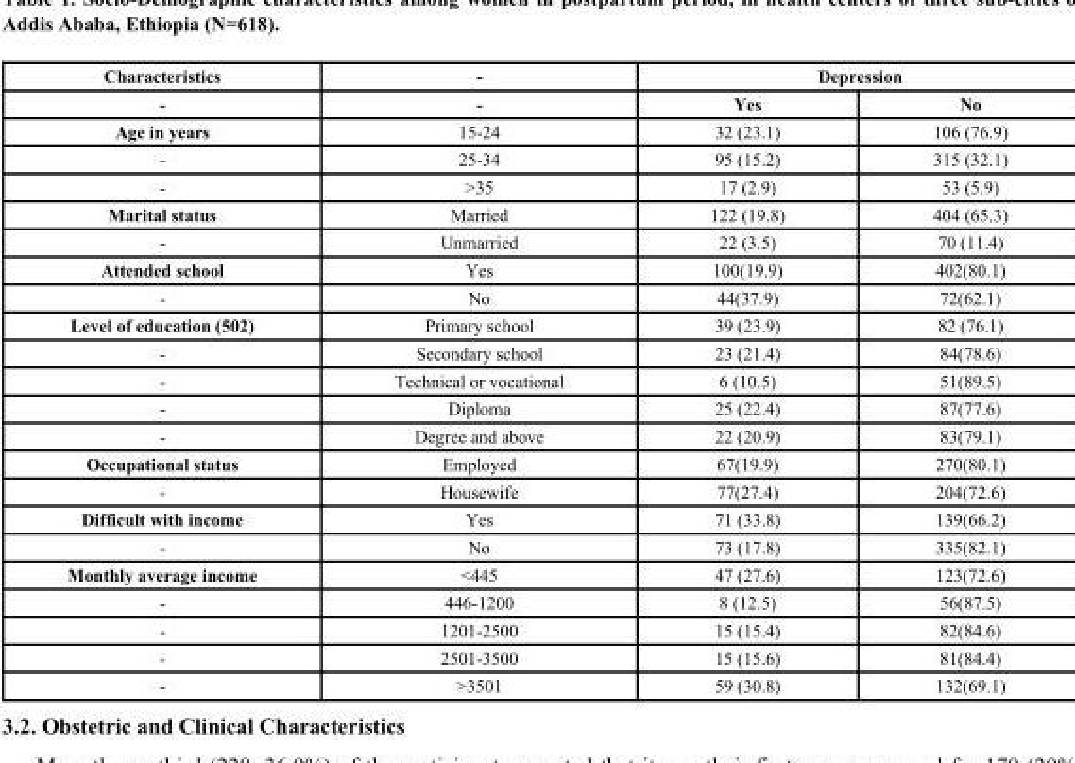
<table><thead><tr><td rowspan="2">Characteristics -</td><td rowspan="2">- -</td><td colspan="2">Depression</td></tr><tr><td>Yes</td><td>No</td></tr></thead><tbody><tr><td>Age in years</td><td>15-24</td><td>32 (23.1)</td><td>106 (76.9)</td></tr><tr><td>-</td><td>25-34</td><td>95 (15.2)</td><td>315 (32.1)</td></tr><tr><td>-</td><td>&gt;35</td><td>17 (2.9)</td><td>53 (5.9)</td></tr><tr><td>Marital status</td><td>Married</td><td>122 (19.8)</td><td>404 (65.3)</td></tr><tr><td>-</td><td>Unmarried</td><td>22 (3.5)</td><td>70 (11.4)</td></tr><tr><td>Attended school</td><td>Yes</td><td>100(19.9)</td><td>402(80.1)</td></tr><tr><td>-</td><td>No</td><td>44(37.9)</td><td>72(62.1)</td></tr><tr><td>Level of education (502)</td><td>Primary school</td><td>39 (23.9)</td><td>82 (76.1)</td></tr><tr><td>-</td><td>Secondary school</td><td>23 (21.4)</td><td>84(78.6)</td></tr><tr><td>-</td><td>Technical or vocational</td><td>6 (10.5)</td><td>51(89.5)</td></tr><tr><td>-</td><td>Diploma</td><td>25 (22.4)</td><td>87(77.6)</td></tr><tr><td>-</td><td>Degree and above</td><td>22 (20.9)</td><td>83(79.1)</td></tr><tr><td>Occupational status</td><td>Employed</td><td>67(19.9)</td><td>270(80.1)</td></tr><tr><td>-</td><td>Housewife</td><td>77(27.4)</td><td>204(72.6)</td></tr><tr><td>Difficult with income</td><td>Yes</td><td>71 (33.8)</td><td>139(66.2)</td></tr><tr><td>-</td><td>No</td><td>73 (17.8)</td><td>335(82.1)</td></tr><tr><td>Monthly average income</td><td>&lt;445</td><td>47 (27.6)</td><td>123(72.6)</td></tr><tr><td>-</td><td>446-1200</td><td>8 (12.5)</td><td>56(87.5)</td></tr><tr><td>-</td><td>1201-2500</td><td>15 (15.4)</td><td>82(84.6)</td></tr><tr><td>-</td><td>2501-3500</td><td>15 (15.6)</td><td>81(84.4)</td></tr><tr><td>-</td><td>&gt;3501</td><td>59 (30.8)</td><td>132(69.1)</td></tr></tbody></table>